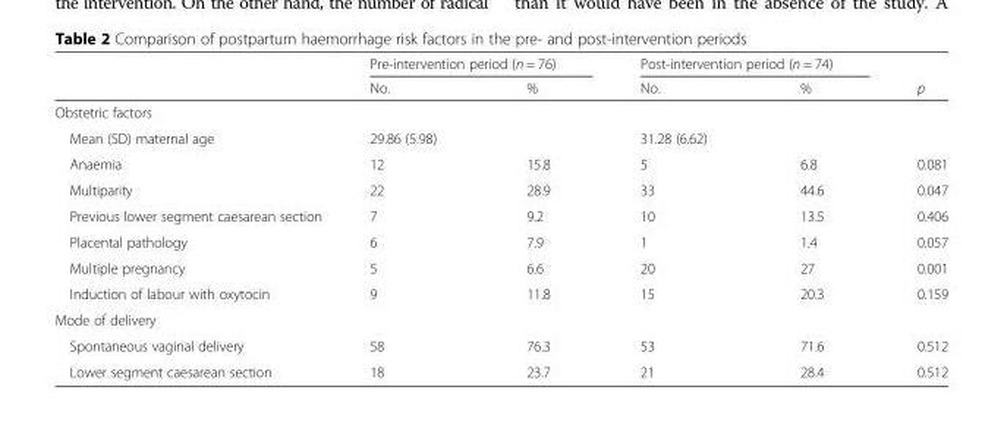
<table><thead><tr><td rowspan="2"></td><td colspan="2">Pre-intervention period (n = 76)</td><td colspan="2">Post-intervention period (n = 74)</td><td rowspan="2">p</td></tr><tr><td>No.</td><td>%</td><td>No.</td><td>%</td></tr></thead><tbody><tr><td colspan="6">Obstetric factors</td></tr><tr><td>Mean (SD) maternal age</td><td>29.86 (5.98)</td><td></td><td>31.28 (6.62)</td><td></td><td></td></tr><tr><td>Anaemia</td><td>12</td><td>15.8</td><td>5</td><td>6.8</td><td>0.081</td></tr><tr><td>Multiparity</td><td>22</td><td>28.9</td><td>33</td><td>44.6</td><td>0.047</td></tr><tr><td>Previous lower segment caesarean section</td><td>7</td><td>9.2</td><td>10</td><td>13.5</td><td>0.406</td></tr><tr><td>Placental pathology</td><td>6</td><td>7.9</td><td>1</td><td>1.4</td><td>0.057</td></tr><tr><td>Multiple pregnancy</td><td>5</td><td>6.6</td><td>20</td><td>27</td><td>0.001</td></tr><tr><td>Induction of labour with oxytocin</td><td>9</td><td>11.8</td><td>15</td><td>20.3</td><td>0.159</td></tr><tr><td colspan="6">Mode of delivery</td></tr><tr><td>Spontaneous vaginal delivery</td><td>58</td><td>76.3</td><td>53</td><td>71.6</td><td>0.512</td></tr><tr><td>Lower segment caesarean section</td><td>18</td><td>23.7</td><td>21</td><td>28.4</td><td>0.512</td></tr></tbody></table>